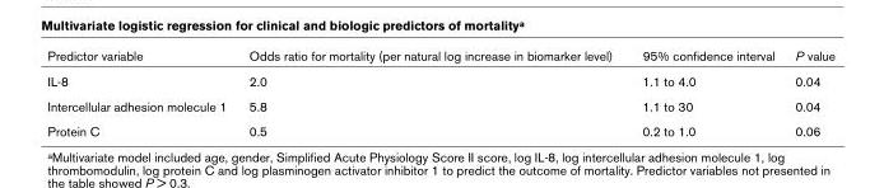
<table><thead><tr><td>Predictor variable</td><td>Odds ratio for mortality (per natural log increase in biomarker level)</td><td>95% confidence interval</td><td>P value</td></tr></thead><tbody><tr><td>IL-8</td><td>2.0</td><td>1.1 to 4.0</td><td>0.04</td></tr><tr><td>Intercellular adhesion molecule 1</td><td>5.8</td><td>1.1 to 30</td><td>0.04</td></tr><tr><td>Protein C</td><td>0.5</td><td>0.2 to 1.0</td><td>0.06</td></tr></tbody></table>